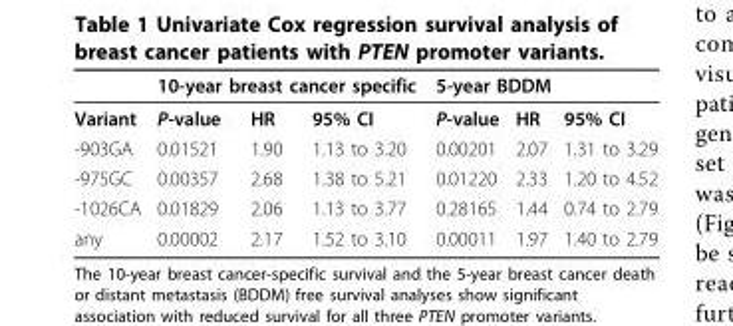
<table><thead><tr><td rowspan="2">Variant</td><td colspan="3">10-year breast cancer specific</td><td colspan="3">5-year BDDM</td></tr><tr><td>P-value</td><td>HR</td><td>95% CI</td><td>P-value</td><td>HR</td><td>95% CI</td></tr></thead><tbody><tr><td>-903GA</td><td>0.01521</td><td>1.90</td><td>1.13 to 3.20</td><td>0.00201</td><td>2.07</td><td>1.31 to 3.29</td></tr><tr><td>-975GC</td><td>0.00357</td><td>2.68</td><td>1.38 to 5.21</td><td>0.01220</td><td>2.33</td><td>1.20 to 4.52</td></tr><tr><td>-1026CA</td><td>0.01829</td><td>2.06</td><td>1.13 to 3.77</td><td>0.28165</td><td>1.44</td><td>0.74 to 2.79</td></tr><tr><td>any</td><td>0.00002</td><td>2.17</td><td>1.52 to 3.10</td><td>0.00011</td><td>1.97</td><td>1.40 to 2.79</td></tr></tbody></table>